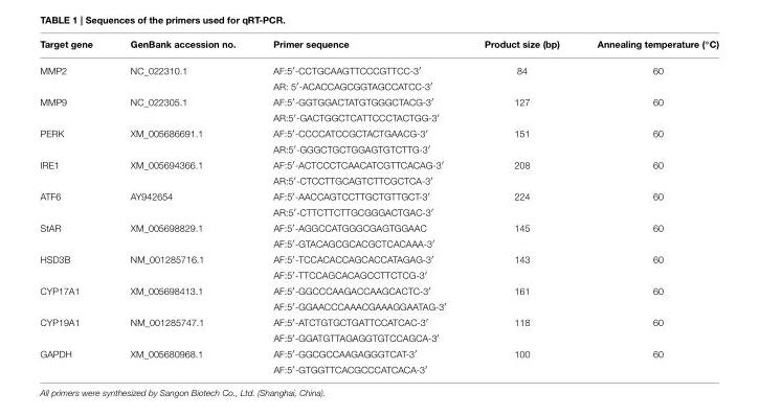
<table><thead><tr><td>Target gene</td><td>GenBank accession no.</td><td>Primer sequence</td><td>Product size (bp)</td><td>Annealing temperature (◦C)</td></tr></thead><tbody><tr><td rowspan="2">MMP2</td><td>NC_022310.1</td><td>AF:5′-CCTGCAAGTTCCCGTTCC-3′</td><td>84</td><td>60</td></tr><tr><td></td><td>AR: 5′-ACACCAGCGGTAGCCATCC-3′</td><td></td><td></td></tr><tr><td rowspan="2">MMP9</td><td>NC_022305.1</td><td>AF:5′-GGTGGACTATGTGGGCTACG-3′</td><td>127</td><td>60</td></tr><tr><td></td><td>AR:5′-GACTGGCTCATTCCCTACTGG-3′</td><td></td><td></td></tr><tr><td rowspan="2">PERK</td><td>XM_005686691.1</td><td>AF:5′-CCCCATCCGCTACTGAACG-3′</td><td>151</td><td>60</td></tr><tr><td></td><td>AR:5′-GGGCTGCTGGAGTGTCTTG-3′</td><td></td><td></td></tr><tr><td rowspan="2">IRE1</td><td>XM_005694366.1</td><td>AF:5′-ACTCCCTCAACATCGTTCACAG-3′</td><td>208</td><td>60</td></tr><tr><td></td><td>AR:5′-CTCCTTGCAGTCTTCGCTCA-3′</td><td></td><td></td></tr><tr><td rowspan="2">ATF6</td><td>AY942654</td><td>AF:5′-AACCAGTCCTTGCTGTTGCT-3′</td><td>224</td><td>60</td></tr><tr><td></td><td>AR:5′-CTTCTTCTTGCGGGACTGAC-3′</td><td></td><td></td></tr><tr><td rowspan="2">StAR</td><td>XM_005698829.1</td><td>AF:5′-AGGCCATGGGCGAGTGGAAC</td><td>145</td><td>60</td></tr><tr><td></td><td>AF:5′-GTACAGCGCACGCTCACAAA-3′</td><td></td><td></td></tr><tr><td rowspan="2">HSD3B</td><td>NM_001285716.1</td><td>AF:5′-TCCACACCAGCACCATAGAG-3′</td><td>143</td><td>60</td></tr><tr><td></td><td>AF:5′-TTCCAGCACAGCCTTCTCG-3′</td><td></td><td></td></tr><tr><td rowspan="2">CYP17A1</td><td>XM_005698413.1</td><td>AF:5′-GGCCCAAGACCAAGCACTC-3′</td><td>161</td><td>60</td></tr><tr><td></td><td>AF:5′-GGAACCCAAACGAAAGGAATAG-3′</td><td></td><td></td></tr><tr><td rowspan="2">CYP19A1</td><td>NM_001285747.1</td><td>AF:5′-ATCTGTGCTGATTCCATCAC-3′</td><td>118</td><td>60</td></tr><tr><td></td><td>AF:5′-GGATGTTAGAGGTGTCCAGCA-3′</td><td></td><td></td></tr><tr><td rowspan="2">GAPDH</td><td>XM_005680968.1</td><td>AF:5′-GGCGCCAAGAGGGTCAT-3′</td><td>100</td><td>60</td></tr><tr><td></td><td>AF:5′-GTGGTTCACGCCCATCACA-3′</td><td></td><td></td></tr></tbody></table>